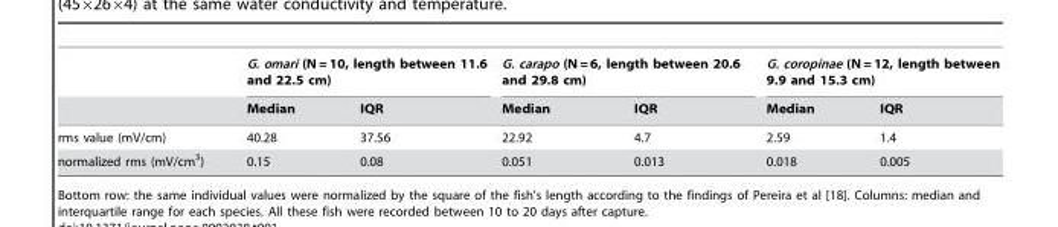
<table><thead><tr><td rowspan="2"></td><td colspan="2">G. omari (N = 10, length between 11.6 and 22.5 cm)</td><td colspan="2">G. carapo (N = 6, length between 20.6 and 29.8 cm)</td><td colspan="2">G. coropinae (N = 12, length between 9.9 and 15.3 cm)</td></tr><tr><td>Median</td><td>IQR</td><td>Median</td><td>IQR</td><td>Median</td><td>IQR</td></tr></thead><tbody><tr><td>rms value (mV/cm)</td><td>40.28</td><td>37.56</td><td>22.92</td><td>4.7</td><td>2.59</td><td>1.4</td></tr><tr><td>normalized rms (mV/cm<sup>3</sup>)</td><td>0.15</td><td>0.08</td><td>0.051</td><td>0.013</td><td>0.018</td><td>0.005</td></tr></tbody></table>